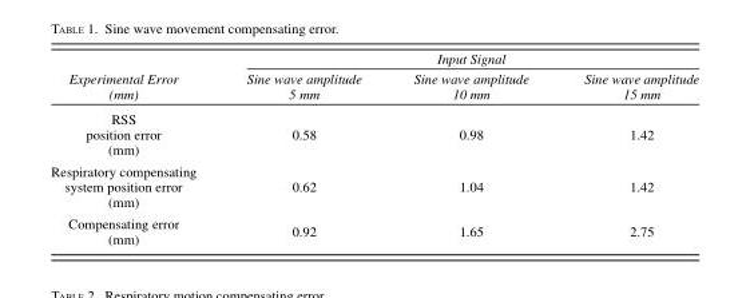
<table><thead><tr><td rowspan="2">Experimental Error (mm)</td><td colspan="3">Input Signal</td></tr><tr><td>Sine wave amplitude 5 mm</td><td>Sine wave amplitude 10 mm</td><td>Sine wave amplitude 15 mm</td></tr></thead><tbody><tr><td>RSS position error (mm)</td><td>0.58</td><td>0.98</td><td>1.42</td></tr><tr><td>Respiratory compensating system position error (mm)</td><td>0.62</td><td>1.04</td><td>1.42</td></tr><tr><td>Compensating error (mm)</td><td>0.92</td><td>1.65</td><td>2.75</td></tr></tbody></table>